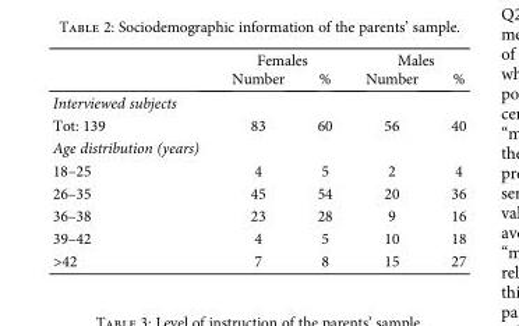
<table><thead><tr><td rowspan="2"></td><td colspan="2">Females</td><td colspan="2">Males</td></tr><tr><td>Number</td><td>%</td><td>Number</td><td>%</td></tr></thead><tbody><tr><td colspan="5">Interviewed subjects</td></tr><tr><td>Tot: 139</td><td>83</td><td>60</td><td>56</td><td>40</td></tr><tr><td colspan="5">Age distribution (years)</td></tr><tr><td>18–25</td><td>4</td><td>5</td><td>2</td><td>4</td></tr><tr><td>26–35</td><td>45</td><td>54</td><td>20</td><td>36</td></tr><tr><td>36–38</td><td>23</td><td>28</td><td>9</td><td>16</td></tr><tr><td>39–42</td><td>4</td><td>5</td><td>10</td><td>18</td></tr><tr><td>&gt;42</td><td>7</td><td>8</td><td>15</td><td>27</td></tr></tbody></table>